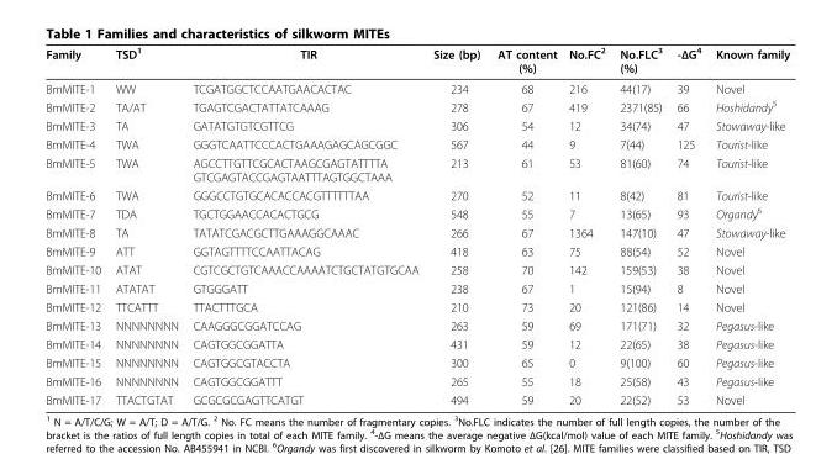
<table><thead><tr><td>Family</td><td>TSD<sup>1</sup></td><td>TIR</td><td>Size (bp)</td><td>AT content (%)</td><td>No.FC<sup>2</sup></td><td>No.FLC<sup>3</sup> (%)</td><td>-ΔG<sup>4</sup></td><td>Known family</td></tr></thead><tbody><tr><td>BmMITE-1</td><td>WW</td><td>TCGATGGCTCCAATGAACACTAC</td><td>234</td><td>68</td><td>216</td><td>44(17)</td><td>39</td><td>Novel</td></tr><tr><td>BmMITE-2</td><td>TA/AT</td><td>TGAGTCGACTATTATCAAAG</td><td>278</td><td>67</td><td>419</td><td>2371(85)</td><td>66</td><td>Hoshidandy<sup>5</sup></td></tr><tr><td>BmMITE-3</td><td>TA</td><td>GATATGTGTCGTTCG</td><td>306</td><td>54</td><td>12</td><td>34(74)</td><td>47</td><td>Stowaway-like</td></tr><tr><td>BmMITE-4</td><td>TWA</td><td>GGGTCAATTCCCACTGAAAGAGCAGCGGC</td><td>567</td><td>44</td><td>9</td><td>7(44)</td><td>125</td><td>Tourist-like</td></tr><tr><td>BmMITE-5</td><td>TWA</td><td>AGCCTTGTTCGCACTAAGCGAGTATTTTA GTCGAGTACCGAGTAATTTAGTGGCTAAA</td><td>213</td><td>61</td><td>53</td><td>81(60)</td><td>74</td><td>Tourist-like</td></tr><tr><td>BmMITE-6</td><td>TWA</td><td>GGGCCTGTGCACACCACGTTTTTTAA</td><td>270</td><td>52</td><td>11</td><td>8(42)</td><td>81</td><td>Tourist-like</td></tr><tr><td>BmMITE-7</td><td>TDA</td><td>TGCTGGAACCACACTGCG</td><td>548</td><td>55</td><td>7</td><td>13(65)</td><td>93</td><td>Organdy<sup>6</sup></td></tr><tr><td>BmMITE-8</td><td>TA</td><td>TATATCGACGCTTGAAAGGCAAAC</td><td>266</td><td>67</td><td>1364</td><td>147(10)</td><td>47</td><td>Stowaway-like</td></tr><tr><td>BmMITE-9</td><td>ATT</td><td>GGTAGTTTTCCAATTACAG</td><td>418</td><td>63</td><td>75</td><td>88(54)</td><td>52</td><td>Novel</td></tr><tr><td>BmMITE-10</td><td>ATAT</td><td>CGTCGCTGTCAAACCAAAATCTGCTATGTGCAA</td><td>258</td><td>70</td><td>142</td><td>159(53)</td><td>38</td><td>Novel</td></tr><tr><td>BmMITE-11</td><td>ATATAT</td><td>GTGGGATT</td><td>238</td><td>67</td><td>1</td><td>15(94)</td><td>8</td><td>Novel</td></tr><tr><td>BmMITE-12</td><td>TTCATTT</td><td>TTACTTTGCA</td><td>210</td><td>73</td><td>20</td><td>121(86)</td><td>14</td><td>Novel</td></tr><tr><td>BmMITE-13</td><td>NNNNNNNN</td><td>CAAGGGCGGATCCAG</td><td>263</td><td>59</td><td>69</td><td>171(71)</td><td>32</td><td>Pegasus-like</td></tr><tr><td>BmMITE-14</td><td>NNNNNNNN</td><td>CAGTGGCGGATTA</td><td>431</td><td>59</td><td>12</td><td>22(65)</td><td>38</td><td>Pegasus-like</td></tr><tr><td>BmMITE-15</td><td>NNNNNNNN</td><td>CAGTGGCGTACCTA</td><td>300</td><td>65</td><td>0</td><td>9(100)</td><td>60</td><td>Pegasus-like</td></tr><tr><td>BmMITE-16</td><td>NNNNNNNN</td><td>CAGTGGCGGATTT</td><td>265</td><td>55</td><td>18</td><td>25(58)</td><td>43</td><td>Pegasus-like</td></tr><tr><td>BmMITE-17</td><td>TTACTGTAT</td><td>GCGCGCGAGTTCATGT</td><td>494</td><td>59</td><td>20</td><td>22(52)</td><td>53</td><td>Novel</td></tr></tbody></table>